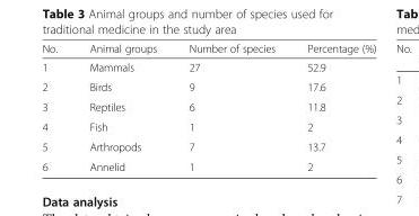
<table><thead><tr><td>No.</td><td>Animal groups</td><td>Number of species</td><td>Percentage (%)</td></tr></thead><tbody><tr><td>1</td><td>Mammals</td><td>27</td><td>52.9</td></tr><tr><td>2</td><td>Birds</td><td>9</td><td>17.6</td></tr><tr><td>3</td><td>Reptiles</td><td>6</td><td>11.8</td></tr><tr><td>4</td><td>Fish</td><td>1</td><td>2</td></tr><tr><td>5</td><td>Arthropods</td><td>7</td><td>13.7</td></tr><tr><td>6</td><td>Annelid</td><td>1</td><td>2</td></tr></tbody></table>